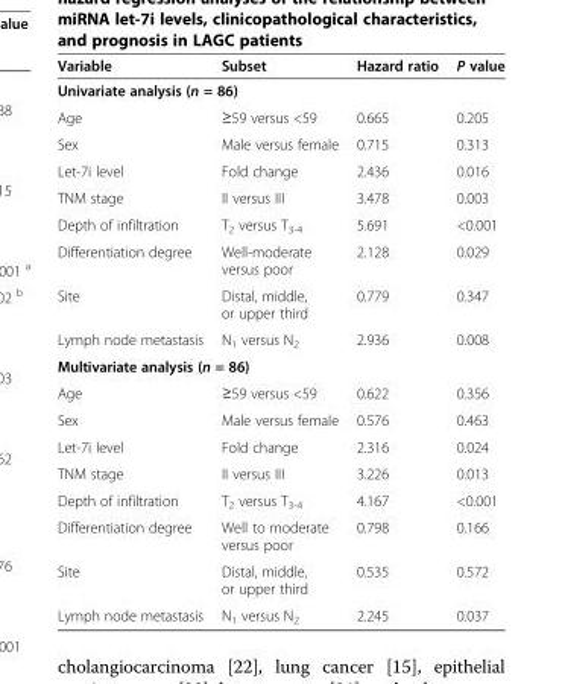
<table><thead><tr><td>Variable</td><td>Subset</td><td>Hazard ratio</td><td>P value</td></tr></thead><tbody><tr><td colspan="4">Univariate analysis (n = 86)</td></tr><tr><td>Age</td><td>≥59 versus &lt;59</td><td>0.665</td><td>0.205</td></tr><tr><td>Sex</td><td>Male versus female</td><td>0.715</td><td>0.313</td></tr><tr><td>Let-7i level</td><td>Fold change</td><td>2.436</td><td>0.016</td></tr><tr><td>TNM stage</td><td>II versus III</td><td>3.478</td><td>0.003</td></tr><tr><td>Depth of infiltration</td><td>T<sub>2</sub> versus T<sub>3-4</sub></td><td>5.691</td><td>&lt;0.001</td></tr><tr><td>Differentiation degree</td><td>Well-moderate versus poor</td><td>2.128</td><td>0.029</td></tr><tr><td>Site</td><td>Distal, middle, or upper third</td><td>0.779</td><td>0.347</td></tr><tr><td>Lymph node metastasis</td><td>N<sub>1</sub> versus N<sub>2</sub></td><td>2.936</td><td>0.008</td></tr><tr><td colspan="4">Multivariate analysis (n = 86)</td></tr><tr><td>Age</td><td>≥59 versus &lt;59</td><td>0.622</td><td>0.356</td></tr><tr><td>Sex</td><td>Male versus female</td><td>0.576</td><td>0.463</td></tr><tr><td>Let-7i level</td><td>Fold change</td><td>2.316</td><td>0.024</td></tr><tr><td>TNM stage</td><td>II versus III</td><td>3.226</td><td>0.013</td></tr><tr><td>Depth of infiltration</td><td>T<sub>2</sub> versus T<sub>3-4</sub></td><td>4.167</td><td>&lt;0.001</td></tr><tr><td>Differentiation degree</td><td>Well to moderate versus poor</td><td>0.798</td><td>0.166</td></tr><tr><td>Site</td><td>Distal, middle, or upper third</td><td>0.535</td><td>0.572</td></tr><tr><td>Lymph node metastasis</td><td>N<sub>1</sub> versus N<sub>2</sub></td><td>2.245</td><td>0.037</td></tr></tbody></table>